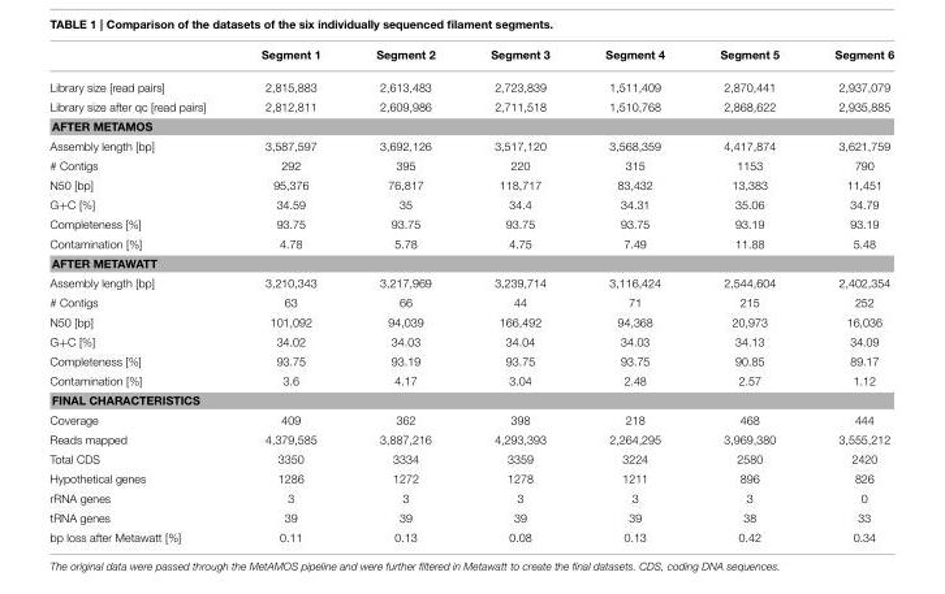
<table><thead><tr><td></td><td>Segment 1</td><td>Segment 2</td><td>Segment 3</td><td>Segment 4</td><td>Segment 5</td><td>Segment 6</td></tr></thead><tbody><tr><td>Library size [read pairs]</td><td>2,815,883</td><td>2,613,483</td><td>2,723,839</td><td>1,511,409</td><td>2,870,441</td><td>2,937,079</td></tr><tr><td>Library size after qc [read pairs]</td><td>2,812,811</td><td>2,609,986</td><td>2,711,518</td><td>1,510,768</td><td>2,868,622</td><td>2,935,885</td></tr><tr><td colspan="7">AFTER METAMOS</td></tr><tr><td>Assembly length [bp]</td><td>3,587,597</td><td>3,692,126</td><td>3,517,120</td><td>3,568,359</td><td>4,417,874</td><td>3,621,759</td></tr><tr><td># Contigs</td><td>292</td><td>395</td><td>220</td><td>315</td><td>1153</td><td>790</td></tr><tr><td>N50 [bp]</td><td>95,376</td><td>76,817</td><td>118,717</td><td>83,432</td><td>13,383</td><td>11,451</td></tr><tr><td>G+C [%]</td><td>34.59</td><td>35</td><td>34.4</td><td>34.31</td><td>35.06</td><td>34.79</td></tr><tr><td>Completeness [%]</td><td>93.75</td><td>93.75</td><td>93.75</td><td>93.75</td><td>93.19</td><td>93.19</td></tr><tr><td>Contamination [%]</td><td>4.78</td><td>5.78</td><td>4.75</td><td>7.49</td><td>11.88</td><td>5.48</td></tr><tr><td colspan="7">AFTER METAWATT</td></tr><tr><td>Assembly length [bp]</td><td>3,210,343</td><td>3,217,969</td><td>3,239,714</td><td>3,116,424</td><td>2,544,604</td><td>2,402,354</td></tr><tr><td># Contigs</td><td>63</td><td>66</td><td>44</td><td>71</td><td>215</td><td>252</td></tr><tr><td>N50 [bp]</td><td>101,092</td><td>94,039</td><td>166,492</td><td>94,368</td><td>20,973</td><td>16,036</td></tr><tr><td>G+C [%]</td><td>34.02</td><td>34.03</td><td>34.04</td><td>34.03</td><td>34.13</td><td>34.09</td></tr><tr><td>Completeness [%]</td><td>93.75</td><td>93.19</td><td>93.75</td><td>93.75</td><td>90.85</td><td>89.17</td></tr><tr><td>Contamination [%]</td><td>3.6</td><td>4.17</td><td>3.04</td><td>2.48</td><td>2.57</td><td>1.12</td></tr><tr><td colspan="7">FINAL CHARACTERISTICS</td></tr><tr><td>Coverage</td><td>409</td><td>362</td><td>398</td><td>218</td><td>468</td><td>444</td></tr><tr><td>Reads mapped</td><td>4,379,585</td><td>3,887,216</td><td>4,293,393</td><td>2,264,295</td><td>3,969,380</td><td>3,555,212</td></tr><tr><td>Total CDS</td><td>3350</td><td>3334</td><td>3359</td><td>3224</td><td>2580</td><td>2420</td></tr><tr><td>Hypothetical genes</td><td>1286</td><td>1272</td><td>1278</td><td>1211</td><td>896</td><td>826</td></tr><tr><td>rRNA genes</td><td>3</td><td>3</td><td>3</td><td>3</td><td>3</td><td>0</td></tr><tr><td>tRNA genes</td><td>39</td><td>39</td><td>39</td><td>39</td><td>38</td><td>33</td></tr><tr><td>bp loss after Metawatt [%]</td><td>0.11</td><td>0.13</td><td>0.08</td><td>0.13</td><td>0.42</td><td>0.34</td></tr></tbody></table>